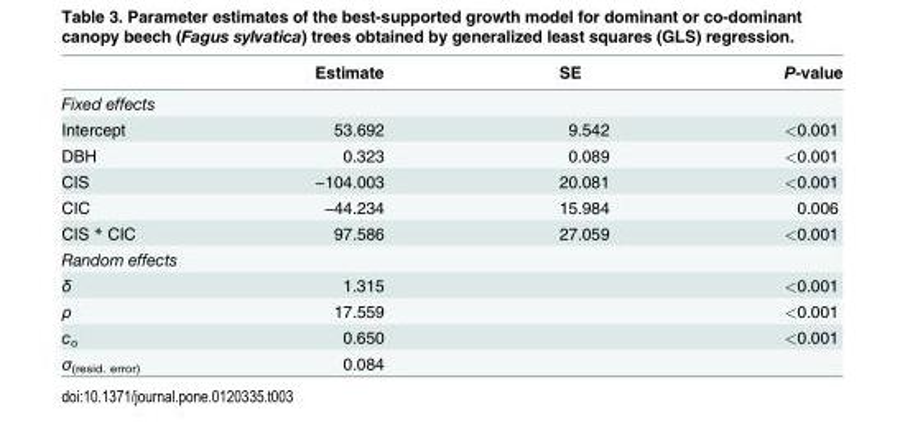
<table><thead><tr><td></td><td>Estimate</td><td>SE</td><td>P-value</td></tr></thead><tbody><tr><td colspan="4">Fixed effects</td></tr><tr><td>Intercept</td><td>53.692</td><td>9.542</td><td>&lt;0.001</td></tr><tr><td>DBH</td><td>0.323</td><td>0.089</td><td>&lt;0.001</td></tr><tr><td>CIS</td><td>−104.003</td><td>20.081</td><td>&lt;0.001</td></tr><tr><td>CIC</td><td>−44.234</td><td>15.984</td><td>0.006</td></tr><tr><td>CIS * CIC</td><td>97.586</td><td>27.059</td><td>&lt;0.001</td></tr><tr><td colspan="4">Random effects</td></tr><tr><td>δ</td><td>1.315</td><td></td><td>&lt;0.001</td></tr><tr><td>ρ</td><td>17.559</td><td></td><td>&lt;0.001</td></tr><tr><td>c<sub>o</sub></td><td>0.650</td><td></td><td>&lt;0.001</td></tr><tr><td>σ<sub>(resid. error)</sub></td><td>0.084</td><td></td><td></td></tr></tbody></table>